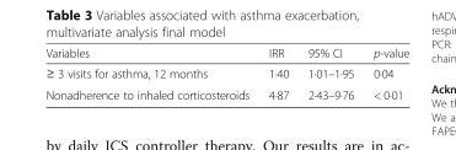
<table><thead><tr><td>Variables</td><td>IRR</td><td>95% CI</td><td>p-value</td></tr></thead><tbody><tr><td>≥ 3 visits for asthma, 12 months</td><td>1·40</td><td>1·01–1·95</td><td>0·04</td></tr><tr><td>Nonadherence to inhaled corticosteroids</td><td>4·87</td><td>2·43–9·76</td><td>&lt; 0·01</td></tr></tbody></table>